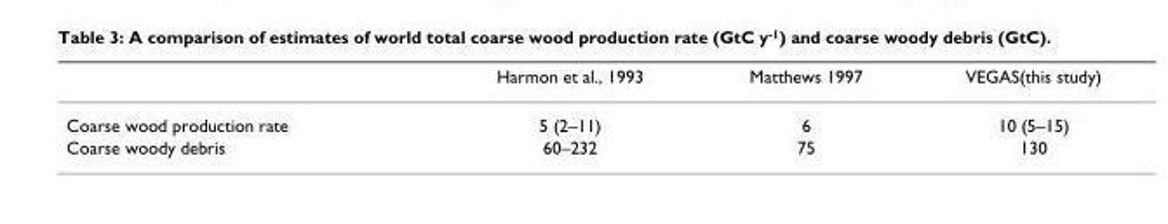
<table><thead><tr><td></td><td>Harmon et al., 1993</td><td>Matthews 1997</td><td>VEGAS(this study)</td></tr></thead><tbody><tr><td>Coarse wood production rate</td><td>5 (2–11)</td><td>6</td><td>10 (5–15)</td></tr><tr><td>Coarse woody debris</td><td>60–232</td><td>75</td><td>130</td></tr></tbody></table>